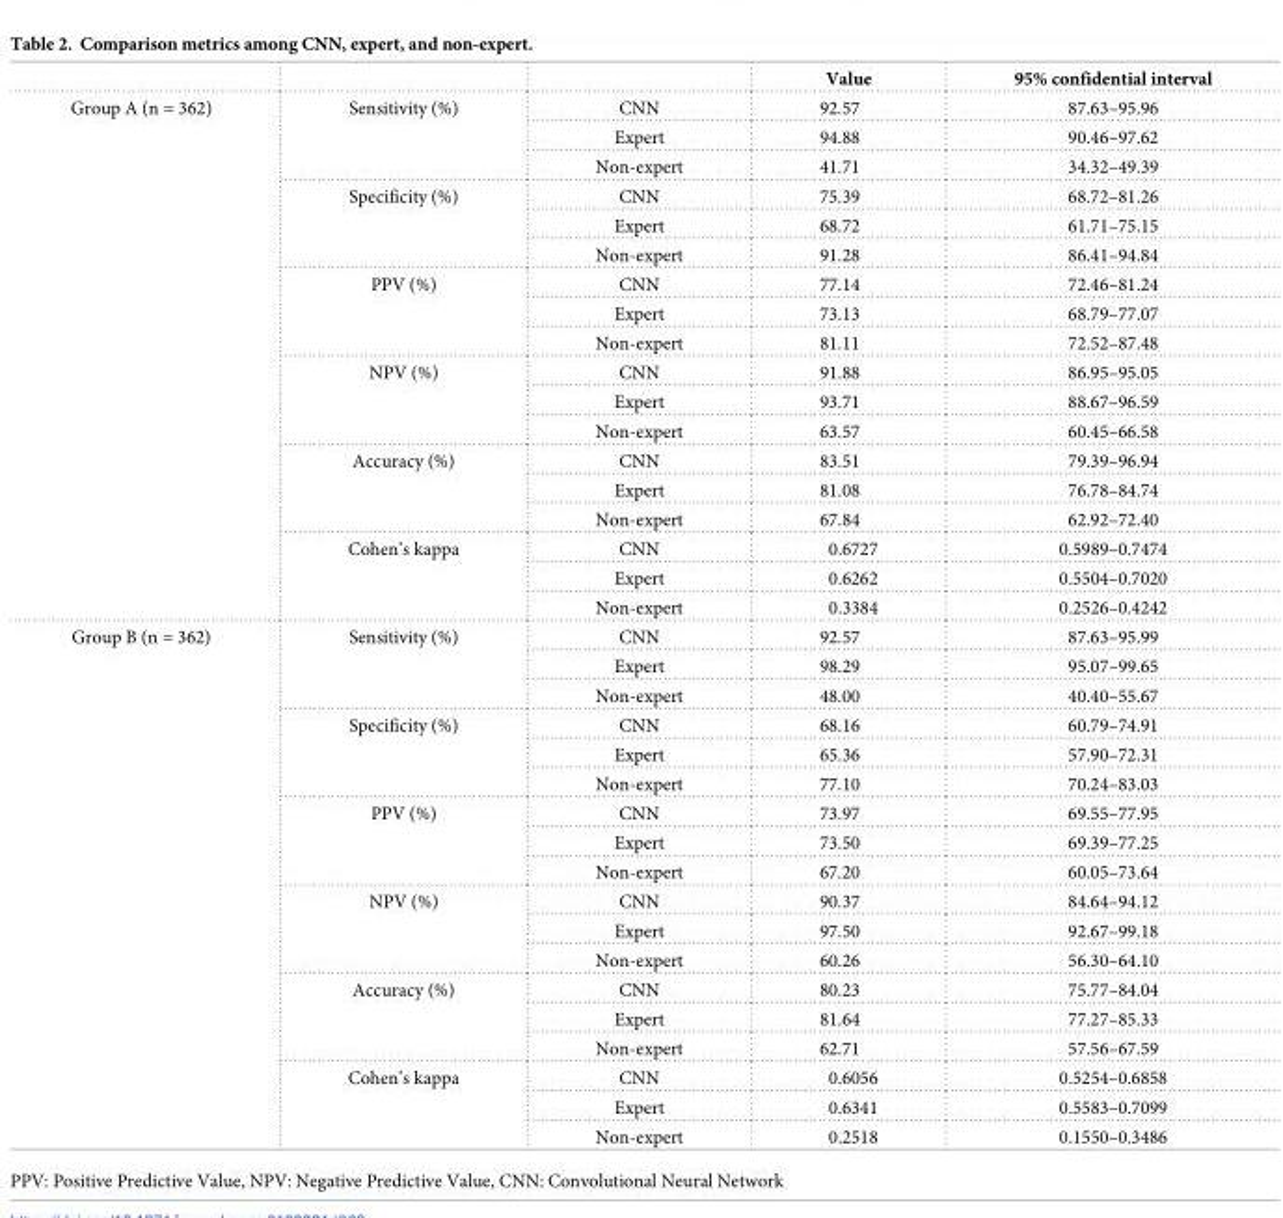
<table><thead><tr><td></td><td></td><td></td><td>Value</td><td>95% confidential interval</td></tr></thead><tbody><tr><td rowspan="18">Group A (n = 362)</td><td rowspan="3">Sensitivity (%)</td><td>CNN</td><td>92.57</td><td>87.63–95.96</td></tr><tr><td>Expert</td><td>94.88</td><td>90.46–97.62</td></tr><tr><td>Non-expert</td><td>41.71</td><td>34.32–49.39</td></tr><tr><td rowspan="3">Specificity (%)</td><td>CNN</td><td>75.39</td><td>68.72–81.26</td></tr><tr><td>Expert</td><td>68.72</td><td>61.71–75.15</td></tr><tr><td>Non-expert</td><td>91.28</td><td>86.41–94.84</td></tr><tr><td rowspan="3">PPV (%)</td><td>CNN</td><td>77.14</td><td>72.46–81.24</td></tr><tr><td>Expert</td><td>73.13</td><td>68.79–77.07</td></tr><tr><td>Non-expert</td><td>81.11</td><td>72.52–87.48</td></tr><tr><td rowspan="3">NPV (%)</td><td>CNN</td><td>91.88</td><td>86.95–95.05</td></tr><tr><td>Expert</td><td>93.71</td><td>88.67–96.59</td></tr><tr><td>Non-expert</td><td>63.57</td><td>60.45–66.58</td></tr><tr><td rowspan="3">Accuracy (%)</td><td>CNN</td><td>83.51</td><td>79.39–96.94</td></tr><tr><td>Expert</td><td>81.08</td><td>76.78–84.74</td></tr><tr><td>Non-expert</td><td>67.84</td><td>62.92–72.40</td></tr><tr><td rowspan="3">Cohen’s kappa</td><td>CNN</td><td>0.6727</td><td>0.5989–0.7474</td></tr><tr><td>Expert</td><td>0.6262</td><td>0.5504–0.7020</td></tr><tr><td>Non-expert</td><td>0.3384</td><td>0.2526–0.4242</td></tr><tr><td rowspan="18">Group B (n = 362)</td><td rowspan="3">Sensitivity (%)</td><td>CNN</td><td>92.57</td><td>87.63–95.99</td></tr><tr><td>Expert</td><td>98.29</td><td>95.07–99.65</td></tr><tr><td>Non-expert</td><td>48.00</td><td>40.40–55.67</td></tr><tr><td rowspan="3">Specificity (%)</td><td>CNN</td><td>68.16</td><td>60.79–74.91</td></tr><tr><td>Expert</td><td>65.36</td><td>57.90–72.31</td></tr><tr><td>Non-expert</td><td>77.10</td><td>70.24–83.03</td></tr><tr><td rowspan="3">PPV (%)</td><td>CNN</td><td>73.97</td><td>69.55–77.95</td></tr><tr><td>Expert</td><td>73.50</td><td>69.39–77.25</td></tr><tr><td>Non-expert</td><td>67.20</td><td>60.05–73.64</td></tr><tr><td rowspan="3">NPV (%)</td><td>CNN</td><td>90.37</td><td>84.64–94.12</td></tr><tr><td>Expert</td><td>97.50</td><td>92.67–99.18</td></tr><tr><td>Non-expert</td><td>60.26</td><td>56.30–64.10</td></tr><tr><td rowspan="3">Accuracy (%)</td><td>CNN</td><td>80.23</td><td>75.77–84.04</td></tr><tr><td>Expert</td><td>81.64</td><td>77.27–85.33</td></tr><tr><td>Non-expert</td><td>62.71</td><td>57.56–67.59</td></tr><tr><td rowspan="3">Cohen’s kappa</td><td>CNN</td><td>0.6056</td><td>0.5254–0.6858</td></tr><tr><td>Expert</td><td>0.6341</td><td>0.5583–0.7099</td></tr><tr><td>Non-expert</td><td>0.2518</td><td>0.1550–0.3486</td></tr></tbody></table>